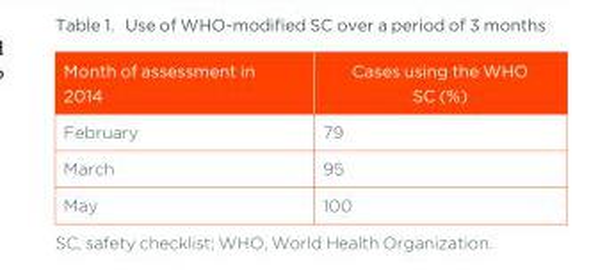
<table><thead><tr><td>Month of assessment in 2014</td><td>Cases using the WHO SC (%)</td></tr></thead><tbody><tr><td>February</td><td>79</td></tr><tr><td>March</td><td>95</td></tr><tr><td>May</td><td>100</td></tr></tbody></table>